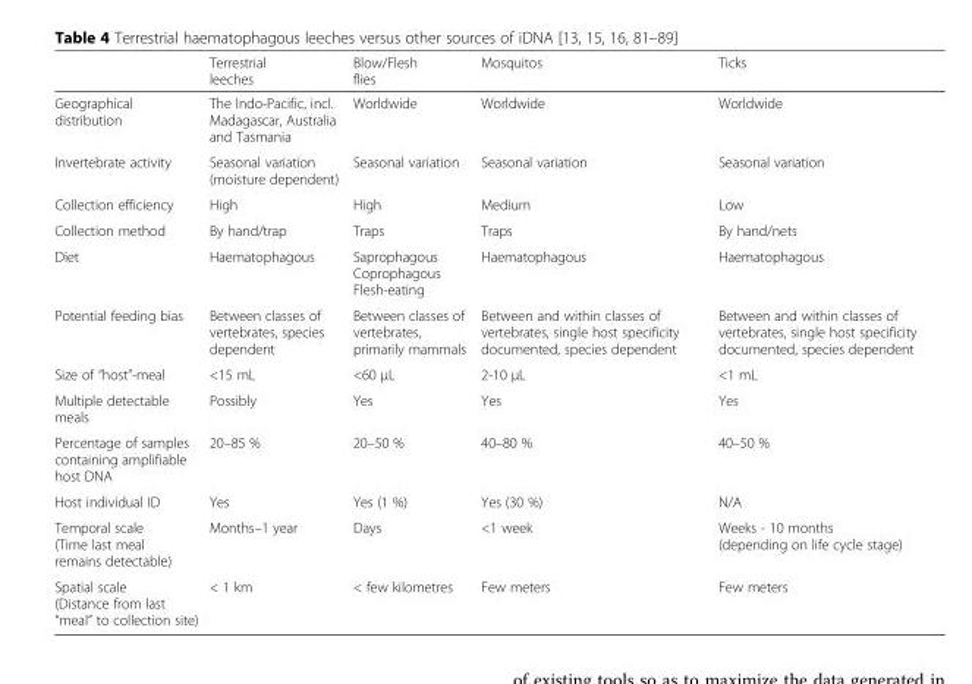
<table><thead><tr><td></td><td>Terrestrial leeches</td><td>Blow/Flesh flies</td><td>Mosquitos</td><td>Ticks</td></tr></thead><tbody><tr><td>Geographical distribution</td><td>The Indo-Pacific, incl. Madagascar, Australia and Tasmania</td><td>Worldwide</td><td>Worldwide</td><td>Worldwide</td></tr><tr><td>Invertebrate activity</td><td>Seasonal variation (moisture dependent)</td><td>Seasonal variation</td><td>Seasonal variation</td><td>Seasonal variation</td></tr><tr><td>Collection efficiency</td><td>High</td><td>High</td><td>Medium</td><td>Low</td></tr><tr><td>Collection method</td><td>By hand/trap</td><td>Traps</td><td>Traps</td><td>By hand/nets</td></tr><tr><td>Diet</td><td>Haematophagous</td><td>Saprophagous Coprophagous Flesh-eating</td><td>Haematophagous</td><td>Haematophagous</td></tr><tr><td>Potential feeding bias</td><td>Between classes of vertebrates, species dependent</td><td>Between classes of vertebrates, primarily mammals</td><td>Between and within classes of vertebrates, single host specificity documented, species dependent</td><td>Between and within classes of vertebrates, single host specificity documented, species dependent</td></tr><tr><td>Size of “host”-meal</td><td>&lt;15 mL</td><td>&lt;60 μL</td><td>2-10 μL</td><td>&lt;1 mL</td></tr><tr><td>Multiple detectable meals</td><td>Possibly</td><td>Yes</td><td>Yes</td><td>Yes</td></tr><tr><td>Percentage of samples containing amplifiable host DNA</td><td>20–85 %</td><td>20–50 %</td><td>40–80 %</td><td>40–50 %</td></tr><tr><td>Host individual ID</td><td>Yes</td><td>Yes (1 %)</td><td>Yes (30 %)</td><td>N/A</td></tr><tr><td>Temporal scale (Time last meal remains detectable)</td><td>Months–1 year</td><td>Days</td><td>&lt;1 week</td><td>Weeks - 10 months (depending on life cycle stage)</td></tr><tr><td>Spatial scale (Distance from last “meal” to collection site)</td><td>&lt; 1 km</td><td>&lt; few kilometres</td><td>Few meters</td><td>Few meters</td></tr></tbody></table>